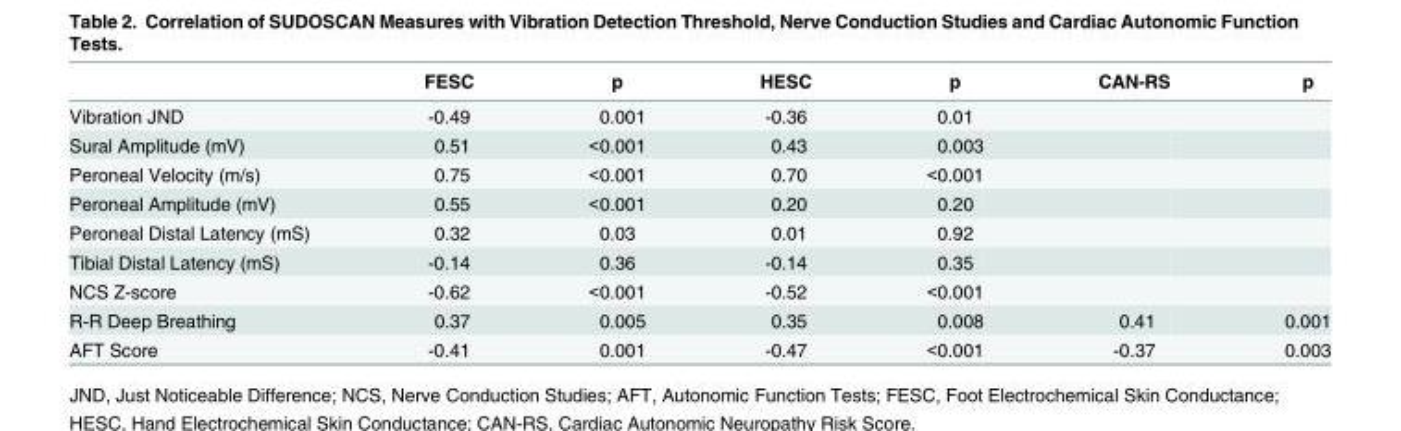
<table><thead><tr><td></td><td>FESC</td><td>p</td><td>HESC</td><td>p</td><td>CAN-RS</td><td>p</td></tr></thead><tbody><tr><td>Vibration JND</td><td>-0.49</td><td>0.001</td><td>-0.36</td><td>0.01</td><td></td><td></td></tr><tr><td>Sural Amplitude (mV)</td><td>0.51</td><td>&lt;0.001</td><td>0.43</td><td>0.003</td><td></td><td></td></tr><tr><td>Peroneal Velocity (m/s)</td><td>0.75</td><td>&lt;0.001</td><td>0.70</td><td>&lt;0.001</td><td></td><td></td></tr><tr><td>Peroneal Amplitude (mV)</td><td>0.55</td><td>&lt;0.001</td><td>0.20</td><td>0.20</td><td></td><td></td></tr><tr><td>Peroneal Distal Latency (mS)</td><td>0.32</td><td>0.03</td><td>0.01</td><td>0.92</td><td></td><td></td></tr><tr><td>Tibial Distal Latency (mS)</td><td>-0.14</td><td>0.36</td><td>-0.14</td><td>0.35</td><td></td><td></td></tr><tr><td>NCS Z-score</td><td>-0.62</td><td>&lt;0.001</td><td>-0.52</td><td>&lt;0.001</td><td></td><td></td></tr><tr><td>R-R Deep Breathing</td><td>0.37</td><td>0.005</td><td>0.35</td><td>0.008</td><td>0.41</td><td>0.001</td></tr><tr><td>AFT Score</td><td>-0.41</td><td>0.001</td><td>-0.47</td><td>&lt;0.001</td><td>-0.37</td><td>0.003</td></tr></tbody></table>